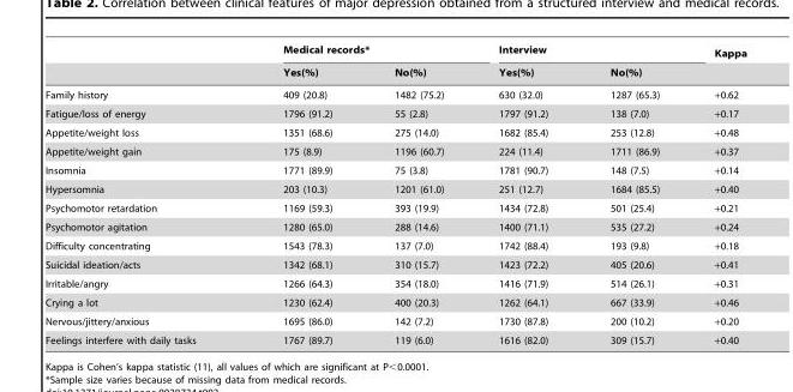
<table><thead><tr><td rowspan="2"></td><td colspan="2">Medical records*</td><td colspan="2">Interview</td><td rowspan="2">Kappa</td></tr><tr><td>Yes(%)</td><td>No(%)</td><td>Yes(%)</td><td>No(%)</td></tr></thead><tbody><tr><td>Family history</td><td>409 (20.8)</td><td>1482 (75.2)</td><td>630 (32.0)</td><td>1287 (65.3)</td><td>+0.62</td></tr><tr><td>Fatigue/loss of energy</td><td>1796 (91.2)</td><td>55 (2.8)</td><td>1797 (91.2)</td><td>138 (7.0)</td><td>+0.17</td></tr><tr><td>Appetite/weight loss</td><td>1351 (68.6)</td><td>275 (14.0)</td><td>1682 (85.4)</td><td>253 (12.8)</td><td>+0.48</td></tr><tr><td>Appetite/weight gain</td><td>175 (8.9)</td><td>1196 (60.7)</td><td>224 (11.4)</td><td>1711 (86.9)</td><td>+0.37</td></tr><tr><td>Insomnia</td><td>1771 (89.9)</td><td>75 (3.8)</td><td>1781 (90.7)</td><td>148 (7.5)</td><td>+0.14</td></tr><tr><td>Hypersomnia</td><td>203 (10.3)</td><td>1201 (61.0)</td><td>251 (12.7)</td><td>1684 (85.5)</td><td>+0.40</td></tr><tr><td>Psychomotor retardation</td><td>1169 (59.3)</td><td>393 (19.9)</td><td>1434 (72.8)</td><td>501 (25.4)</td><td>+0.21</td></tr><tr><td>Psychomotor agitation</td><td>1280 (65.0)</td><td>288 (14.6)</td><td>1400 (71.1)</td><td>535 (27.2)</td><td>+0.24</td></tr><tr><td>Difficulty concentrating</td><td>1543 (78.3)</td><td>137 (7.0)</td><td>1742 (88.4)</td><td>193 (9.8)</td><td>+0.18</td></tr><tr><td>Suicidal ideation/acts</td><td>1342 (68.1)</td><td>310 (15.7)</td><td>1423 (72.2)</td><td>405 (20.6)</td><td>+0.41</td></tr><tr><td>Irritable/angry</td><td>1266 (64.3)</td><td>354 (18.0)</td><td>1416 (71.9)</td><td>514 (26.1)</td><td>+0.31</td></tr><tr><td>Crying a lot</td><td>1230 (62.4)</td><td>400 (20.3)</td><td>1262 (64.1)</td><td>667 (33.9)</td><td>+0.46</td></tr><tr><td>Nervous/jittery/anxious</td><td>1695 (86.0)</td><td>142 (7.2)</td><td>1730 (87.8)</td><td>200 (10.2)</td><td>+0.20</td></tr><tr><td>Feelings interfere with daily tasks</td><td>1767 (89.7)</td><td>119 (6.0)</td><td>1616 (82.0)</td><td>309 (15.7)</td><td>+0.40</td></tr></tbody></table>